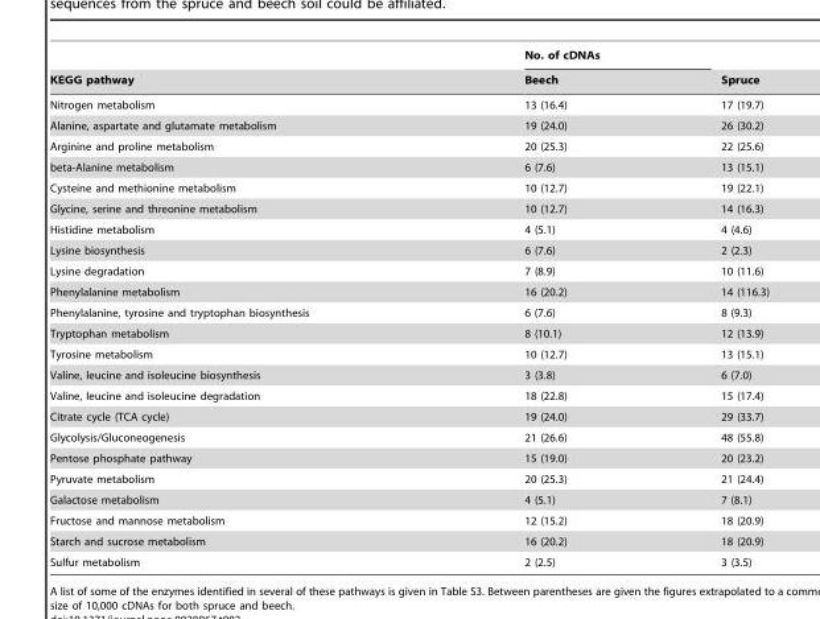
<table><thead><tr><td rowspan="2">KEGG pathway</td><td rowspan="2">No. of cDNAs Beech</td><td rowspan="2">Spruce</td></tr><tr></tr></thead><tbody><tr><td>Nitrogen metabolism</td><td>13 (16.4)</td><td>17 (19.7)</td></tr><tr><td>Alanine, aspartate and glutamate metabolism</td><td>19 (24.0)</td><td>26 (30.2)</td></tr><tr><td>Arginine and proline metabolism</td><td>20 (25.3)</td><td>22 (25.6)</td></tr><tr><td>beta-Alanine metabolism</td><td>6 (7.6)</td><td>13 (15.1)</td></tr><tr><td>Cysteine and methionine metabolism</td><td>10 (12.7)</td><td>19 (22.1)</td></tr><tr><td>Glycine, serine and threonine metabolism</td><td>10 (12.7)</td><td>14 (16.3)</td></tr><tr><td>Histidine metabolism</td><td>4 (5.1)</td><td>4 (4.6)</td></tr><tr><td>Lysine biosynthesis</td><td>6 (7.6)</td><td>2 (2.3)</td></tr><tr><td>Lysine degradation</td><td>7 (8.9)</td><td>10 (11.6)</td></tr><tr><td>Phenylalanine metabolism</td><td>16 (20.2)</td><td>14 (116.3)</td></tr><tr><td>Phenylalanine, tyrosine and tryptophan biosynthesis</td><td>6 (7.6)</td><td>8 (9.3)</td></tr><tr><td>Tryptophan metabolism</td><td>8 (10.1)</td><td>12 (13.9)</td></tr><tr><td>Tyrosine metabolism</td><td>10 (12.7)</td><td>13 (15.1)</td></tr><tr><td>Valine, leucine and isoleucine biosynthesis</td><td>3 (3.8)</td><td>6 (7.0)</td></tr><tr><td>Valine, leucine and isoleucine degradation</td><td>18 (22.8)</td><td>15 (17.4)</td></tr><tr><td>Citrate cycle (TCA cycle)</td><td>19 (24.0)</td><td>29 (33.7)</td></tr><tr><td>Glycolysis/Gluconeogenesis</td><td>21 (26.6)</td><td>48 (55.8)</td></tr><tr><td>Pentose phosphate pathway</td><td>15 (19.0)</td><td>20 (23.2)</td></tr><tr><td>Pyruvate metabolism</td><td>20 (25.3)</td><td>21 (24.4)</td></tr><tr><td>Galactose metabolism</td><td>4 (5.1)</td><td>7 (8.1)</td></tr><tr><td>Fructose and mannose metabolism</td><td>12 (15.2)</td><td>18 (20.9)</td></tr><tr><td>Starch and sucrose metabolism</td><td>16 (20.2)</td><td>18 (20.9)</td></tr><tr><td>Sulfur metabolism</td><td>2 (2.5)</td><td>3 (3.5)</td></tr></tbody></table>